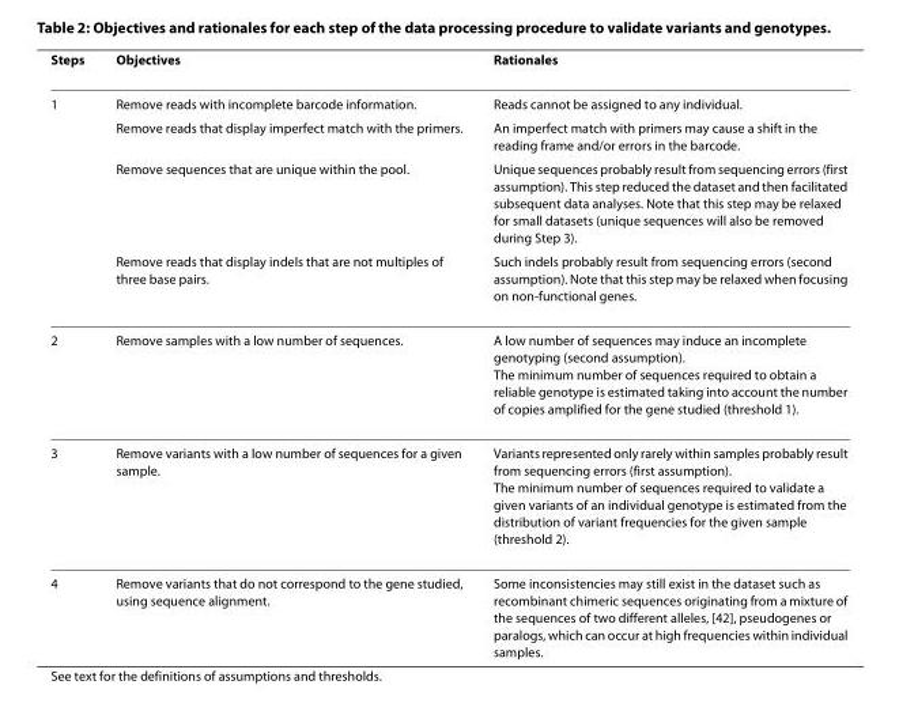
<table><thead><tr><td>Steps</td><td>Objectives</td><td>Rationales</td></tr></thead><tbody><tr><td rowspan="4">1</td><td>Remove reads with incomplete barcode information.</td><td>Reads cannot be assigned to any individual.</td></tr><tr><td>Remove reads that display imperfect match with the primers.</td><td>An imperfect match with primers may cause a shift in the reading frame and/or errors in the barcode.</td></tr><tr><td>Remove sequences that are unique within the pool.</td><td>Unique sequences probably result from sequencing errors (first assumption). This step reduced the dataset and then facilitated subsequent data analyses. Note that this step may be relaxed for small datasets (unique sequences will also be removed during Step 3).</td></tr><tr><td>Remove reads that display indels that are not multiples of three base pairs.</td><td>Such indels probably result from sequencing errors (second assumption). Note that this step may be relaxed when focusing on non-functional genes.</td></tr><tr><td>2</td><td>Remove samples with a low number of sequences.</td><td>A low number of sequences may induce an incomplete genotyping (second assumption). The minimum number of sequences required to obtain a reliable genotype is estimated taking into account the number of copies amplified for the gene studied (threshold 1).</td></tr><tr><td>3</td><td>Remove variants with a low number of sequences for a given sample.</td><td>Variants represented only rarely within samples probably result from sequencing errors (first assumption). The minimum number of sequences required to validate a given variants of an individual genotype is estimated from the distribution of variant frequencies for the given sample (threshold 2).</td></tr><tr><td>4</td><td>Remove variants that do not correspond to the gene studied, using sequence alignment.</td><td>Some inconsistencies may still exist in the dataset such as recombinant chimeric sequences originating from a mixture of the sequences of two different alleles, [42], pseudogenes or paralogs, which can occur at high frequencies within individual samples.</td></tr></tbody></table>